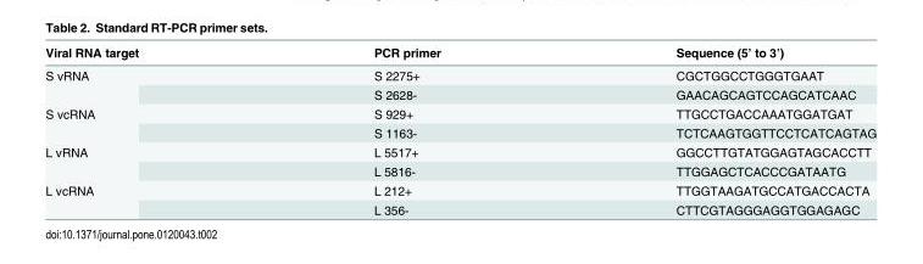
<table><thead><tr><td>Viral RNA target</td><td>PCR primer</td><td>Sequence (5’ to 3’)</td></tr></thead><tbody><tr><td rowspan="2">S vRNA</td><td>S 2275+</td><td>CGCTGGCCTGGGTGAAT</td></tr><tr><td>S 2628-</td><td>GAACAGCAGTCCAGCATCAAC</td></tr><tr><td rowspan="2">S vcRNA</td><td>S 929+</td><td>TTGCCTGACCAAATGGATGAT</td></tr><tr><td>S 1163-</td><td>TCTCAAGTGGTTCCTCATCAGTAG</td></tr><tr><td rowspan="2">L vRNA</td><td>L 5517+</td><td>GGCCTTGTATGGAGTAGCACCTT</td></tr><tr><td>L 5816-</td><td>TTGGAGCTCACCCGATAATG</td></tr><tr><td rowspan="2">L vcRNA</td><td>L 212+</td><td>TTGGTAAGATGCCATGACCACTA</td></tr><tr><td>L 356-</td><td>CTTCGTAGGGAGGTGGAGAGC</td></tr></tbody></table>